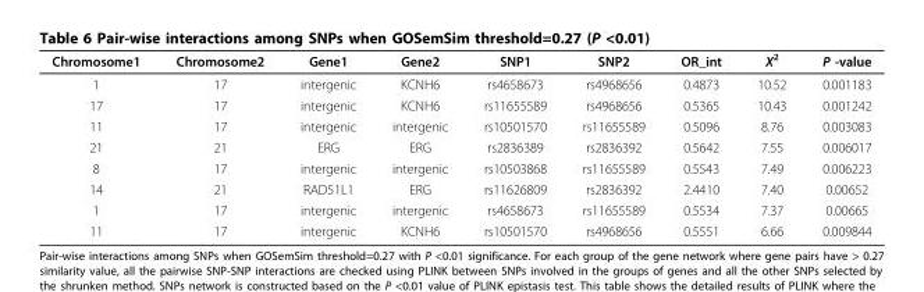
<table><thead><tr><td>Chromosome1</td><td>Chromosome2</td><td>Gene1</td><td>Gene2</td><td>SNP1</td><td>SNP2</td><td>OR_int</td><td>Χ<sup>2</sup></td><td>P -value</td></tr></thead><tbody><tr><td>1</td><td>17</td><td>intergenic</td><td>KCNH6</td><td>rs4658673</td><td>rs4968656</td><td>0.4873</td><td>10.52</td><td>0.001183</td></tr><tr><td>17</td><td>17</td><td>intergenic</td><td>KCNH6</td><td>rs11655589</td><td>rs4968656</td><td>0.5365</td><td>10.43</td><td>0.001242</td></tr><tr><td>11</td><td>17</td><td>intergenic</td><td>intergenic</td><td>rs10501570</td><td>rs11655589</td><td>0.5096</td><td>8.76</td><td>0.003083</td></tr><tr><td>21</td><td>21</td><td>ERG</td><td>ERG</td><td>rs2836389</td><td>rs2836392</td><td>0.5642</td><td>7.55</td><td>0.006017</td></tr><tr><td>8</td><td>17</td><td>intergenic</td><td>intergenic</td><td>rs10503868</td><td>rs11655589</td><td>0.5543</td><td>7.49</td><td>0.006223</td></tr><tr><td>14</td><td>21</td><td>RAD51L1</td><td>ERG</td><td>rs11626809</td><td>rs2836392</td><td>2.4410</td><td>7.40</td><td>0.00652</td></tr><tr><td>1</td><td>17</td><td>intergenic</td><td>intergenic</td><td>rs4658673</td><td>rs11655589</td><td>0.5534</td><td>7.37</td><td>0.00665</td></tr><tr><td>11</td><td>17</td><td>intergenic</td><td>KCNH6</td><td>rs10501570</td><td>rs4968656</td><td>0.5551</td><td>6.66</td><td>0.009844</td></tr></tbody></table>